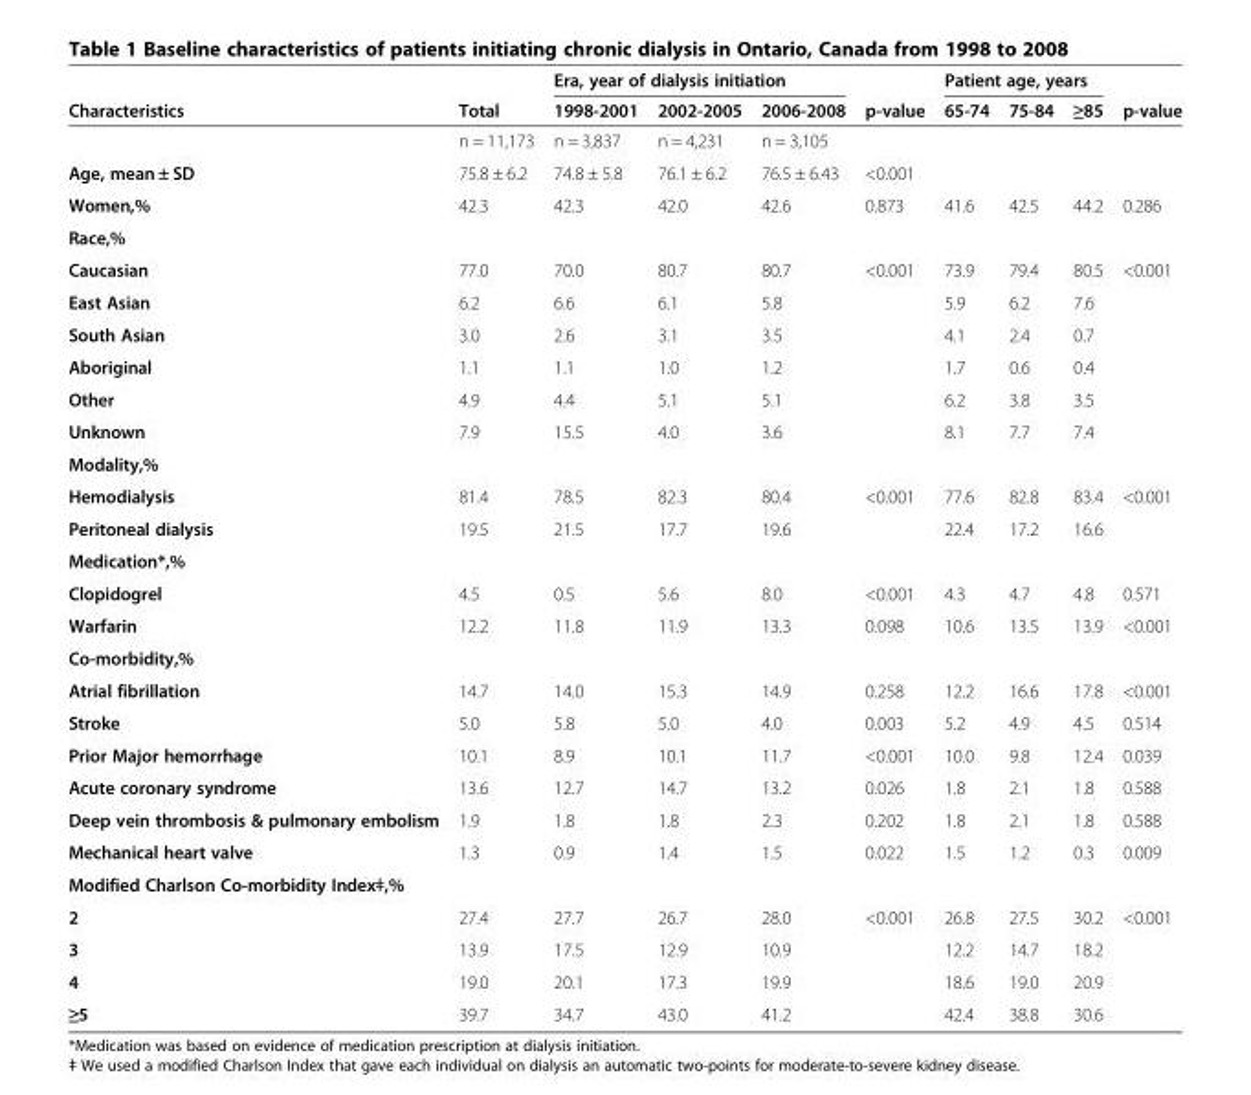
<table><thead><tr><td rowspan="2">Characteristics</td><td rowspan="2">Total</td><td colspan="3">Era, year of dialysis initiation</td><td rowspan="2">p-value</td><td colspan="3">Patient age, years</td><td rowspan="2">p-value</td></tr><tr><td>1998-2001</td><td>2002-2005</td><td>2006-2008</td><td>65-74</td><td>75-84</td><td>≥85</td></tr></thead><tbody><tr><td></td><td>n = 11,173</td><td>n = 3,837</td><td>n = 4,231</td><td>n = 3,105</td><td></td><td></td><td></td><td></td><td></td></tr><tr><td>Age, mean ± SD</td><td>75.8 ± 6.2</td><td>74.8 ± 5.8</td><td>76.1 ± 6.2</td><td>76.5 ± 6.43</td><td>&lt;0.001</td><td></td><td></td><td></td><td></td></tr><tr><td>Women,%</td><td>42.3</td><td>42.3</td><td>42.0</td><td>42.6</td><td>0.873</td><td>41.6</td><td>42.5</td><td>44.2</td><td>0.286</td></tr><tr><td colspan="10">Race,%</td></tr><tr><td>Caucasian</td><td>77.0</td><td>70.0</td><td>80.7</td><td>80.7</td><td>&lt;0.001</td><td>73.9</td><td>79.4</td><td>80.5</td><td>&lt;0.001</td></tr><tr><td>East Asian</td><td>6.2</td><td>6.6</td><td>6.1</td><td>5.8</td><td></td><td>5.9</td><td>6.2</td><td>7.6</td><td></td></tr><tr><td>South Asian</td><td>3.0</td><td>2.6</td><td>3.1</td><td>3.5</td><td></td><td>4.1</td><td>2.4</td><td>0.7</td><td></td></tr><tr><td>Aboriginal</td><td>1.1</td><td>1.1</td><td>1.0</td><td>1.2</td><td></td><td>1.7</td><td>0.6</td><td>0.4</td><td></td></tr><tr><td>Other</td><td>4.9</td><td>4.4</td><td>5.1</td><td>5.1</td><td></td><td>6.2</td><td>3.8</td><td>3.5</td><td></td></tr><tr><td>Unknown</td><td>7.9</td><td>15.5</td><td>4.0</td><td>3.6</td><td></td><td>8.1</td><td>7.7</td><td>7.4</td><td></td></tr><tr><td colspan="10">Modality,%</td></tr><tr><td>Hemodialysis</td><td>81.4</td><td>78.5</td><td>82.3</td><td>80.4</td><td>&lt;0.001</td><td>77.6</td><td>82.8</td><td>83.4</td><td>&lt;0.001</td></tr><tr><td>Peritoneal dialysis</td><td>19.5</td><td>21.5</td><td>17.7</td><td>19.6</td><td></td><td>22.4</td><td>17.2</td><td>16.6</td><td></td></tr><tr><td colspan="10">Medication*,%</td></tr><tr><td>Clopidogrel</td><td>4.5</td><td>0.5</td><td>5.6</td><td>8.0</td><td>&lt;0.001</td><td>4.3</td><td>4.7</td><td>4.8</td><td>0.571</td></tr><tr><td>Warfarin</td><td>12.2</td><td>11.8</td><td>11.9</td><td>13.3</td><td>0.098</td><td>10.6</td><td>13.5</td><td>13.9</td><td>&lt;0.001</td></tr><tr><td colspan="10">Co-morbidity,%</td></tr><tr><td>Atrial fibrillation</td><td>14.7</td><td>14.0</td><td>15.3</td><td>14.9</td><td>0.258</td><td>12.2</td><td>16.6</td><td>17.8</td><td>&lt;0.001</td></tr><tr><td>Stroke</td><td>5.0</td><td>5.8</td><td>5.0</td><td>4.0</td><td>0.003</td><td>5.2</td><td>4.9</td><td>4.5</td><td>0.514</td></tr><tr><td>Prior Major hemorrhage</td><td>10.1</td><td>8.9</td><td>10.1</td><td>11.7</td><td>&lt;0.001</td><td>10.0</td><td>9.8</td><td>12.4</td><td>0.039</td></tr><tr><td>Acute coronary syndrome</td><td>13.6</td><td>12.7</td><td>14.7</td><td>13.2</td><td>0.026</td><td>1.8</td><td>2.1</td><td>1.8</td><td>0.588</td></tr><tr><td>Deep vein thrombosis &amp; pulmonary embolism</td><td>1.9</td><td>1.8</td><td>1.8</td><td>2.3</td><td>0.202</td><td>1.8</td><td>2.1</td><td>1.8</td><td>0.588</td></tr><tr><td>Mechanical heart valve</td><td>1.3</td><td>0.9</td><td>1.4</td><td>1.5</td><td>0.022</td><td>1.5</td><td>1.2</td><td>0.3</td><td>0.009</td></tr><tr><td colspan="10">Modified Charlson Co-morbidity Indexǂ,%</td></tr><tr><td>2</td><td>27.4</td><td>27.7</td><td>26.7</td><td>28.0</td><td>&lt;0.001</td><td>26.8</td><td>27.5</td><td>30.2</td><td>&lt;0.001</td></tr><tr><td>3</td><td>13.9</td><td>17.5</td><td>12.9</td><td>10.9</td><td></td><td>12.2</td><td>14.7</td><td>18.2</td><td></td></tr><tr><td>4</td><td>19.0</td><td>20.1</td><td>17.3</td><td>19.9</td><td></td><td>18.6</td><td>19.0</td><td>20.9</td><td></td></tr><tr><td>≥5</td><td>39.7</td><td>34.7</td><td>43.0</td><td>41.2</td><td></td><td>42.4</td><td>38.8</td><td>30.6</td><td></td></tr></tbody></table>